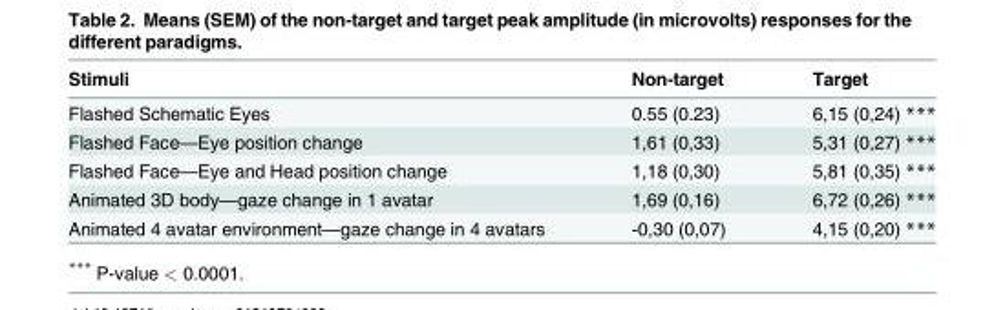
<table><thead><tr><td>Stimuli</td><td>Non-target</td><td>Target</td></tr></thead><tbody><tr><td>Flashed Schematic Eyes</td><td>0.55 (0.23)</td><td>6,15 (0,24) ***</td></tr><tr><td>Flashed Face—Eye position change</td><td>1,61 (0,33)</td><td>5,31 (0,27) ***</td></tr><tr><td>Flashed Face—Eye and Head position change</td><td>1,18 (0,30)</td><td>5,81 (0,35) ***</td></tr><tr><td>Animated 3D body—gaze change in 1 avatar</td><td>1,69 (0,16)</td><td>6,72 (0,26) ***</td></tr><tr><td>Animated 4 avatar environment—gaze change in 4 avatars</td><td>-0,30 (0,07)</td><td>4,15 (0,20) ***</td></tr></tbody></table>